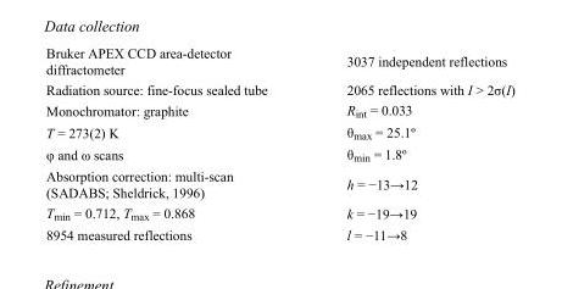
<table><tbody><tr><td>Bruker APEX CCD area-detector diffractometer</td><td>3037 independent reflections</td></tr><tr><td>Radiation source: fine-focus sealed tube</td><td>2065 reflections with I &gt; 2σ(I)</td></tr><tr><td>Monochromator: graphite</td><td>R<sub>int</sub> = 0.033</td></tr><tr><td>T = 273(2) K</td><td>θ<sub>max</sub> = 25.1º</td></tr><tr><td>φ and ω scans</td><td>θ<sub>min</sub> = 1.8º</td></tr><tr><td>Absorption correction: multi-scan (SADABS; Sheldrick, 1996)</td><td>h = −13→12</td></tr><tr><td>T<sub>min</sub> = 0.712, T<sub>max</sub> = 0.868</td><td>k = −19→19</td></tr><tr><td>8954 measured reflections</td><td>l = −11→8</td></tr></tbody></table>